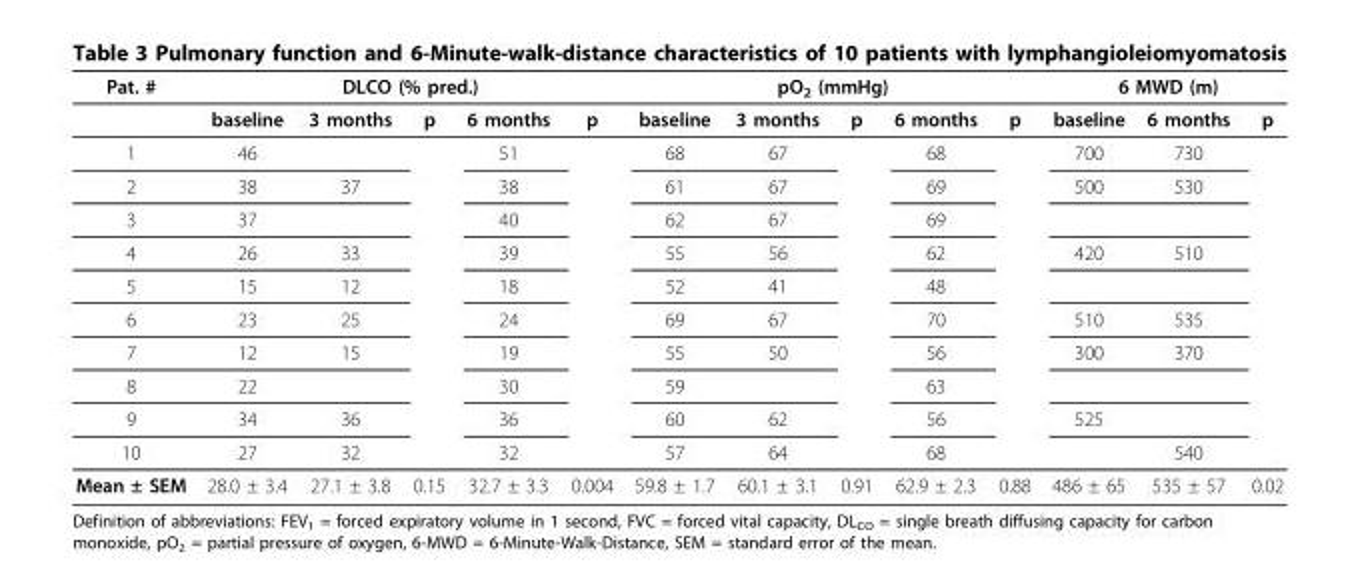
<table><thead><tr><td rowspan="2">Pat. #</td><td colspan="5">DLCO (% pred.)</td><td colspan="5">pO<sub>2</sub> (mmHg)</td><td colspan="3">6 MWD (m)</td></tr><tr><td>baseline</td><td>3 months</td><td>p</td><td>6 months</td><td>p</td><td>baseline</td><td>3 months</td><td>p</td><td>6 months</td><td>p</td><td>baseline</td><td>6 months</td><td>p</td></tr></thead><tbody><tr><td>1</td><td>46</td><td></td><td></td><td>51</td><td></td><td>68</td><td>67</td><td></td><td>68</td><td></td><td>700</td><td>730</td><td></td></tr><tr><td>2</td><td>38</td><td>37</td><td></td><td>38</td><td></td><td>61</td><td>67</td><td></td><td>69</td><td></td><td>500</td><td>530</td><td></td></tr><tr><td>3</td><td>37</td><td></td><td></td><td>40</td><td></td><td>62</td><td>67</td><td></td><td>69</td><td></td><td></td><td></td><td></td></tr><tr><td>4</td><td>26</td><td>33</td><td></td><td>39</td><td></td><td>55</td><td>56</td><td></td><td>62</td><td></td><td>420</td><td>510</td><td></td></tr><tr><td>5</td><td>15</td><td>12</td><td></td><td>18</td><td></td><td>52</td><td>41</td><td></td><td>48</td><td></td><td></td><td></td><td></td></tr><tr><td>6</td><td>23</td><td>25</td><td></td><td>24</td><td></td><td>69</td><td>67</td><td></td><td>70</td><td></td><td>510</td><td>535</td><td></td></tr><tr><td>7</td><td>12</td><td>15</td><td></td><td>19</td><td></td><td>55</td><td>50</td><td></td><td>56</td><td></td><td>300</td><td>370</td><td></td></tr><tr><td>8</td><td>22</td><td></td><td></td><td>30</td><td></td><td>59</td><td></td><td></td><td>63</td><td></td><td></td><td></td><td></td></tr><tr><td>9</td><td>34</td><td>36</td><td></td><td>36</td><td></td><td>60</td><td>62</td><td></td><td>56</td><td></td><td>525</td><td></td><td></td></tr><tr><td>10</td><td>27</td><td>32</td><td></td><td>32</td><td></td><td>57</td><td>64</td><td></td><td>68</td><td></td><td></td><td>540</td><td></td></tr><tr><td>Mean ± SEM</td><td>28.0 ± 3.4</td><td>27.1 ± 3.8</td><td>0.15</td><td>32.7 ± 3.3</td><td>0.004</td><td>59.8 ± 1.7</td><td>60.1 ± 3.1</td><td>0.91</td><td>62.9 ± 2.3</td><td>0.88</td><td>486 ± 65</td><td>535 ± 57</td><td>0.02</td></tr></tbody></table>